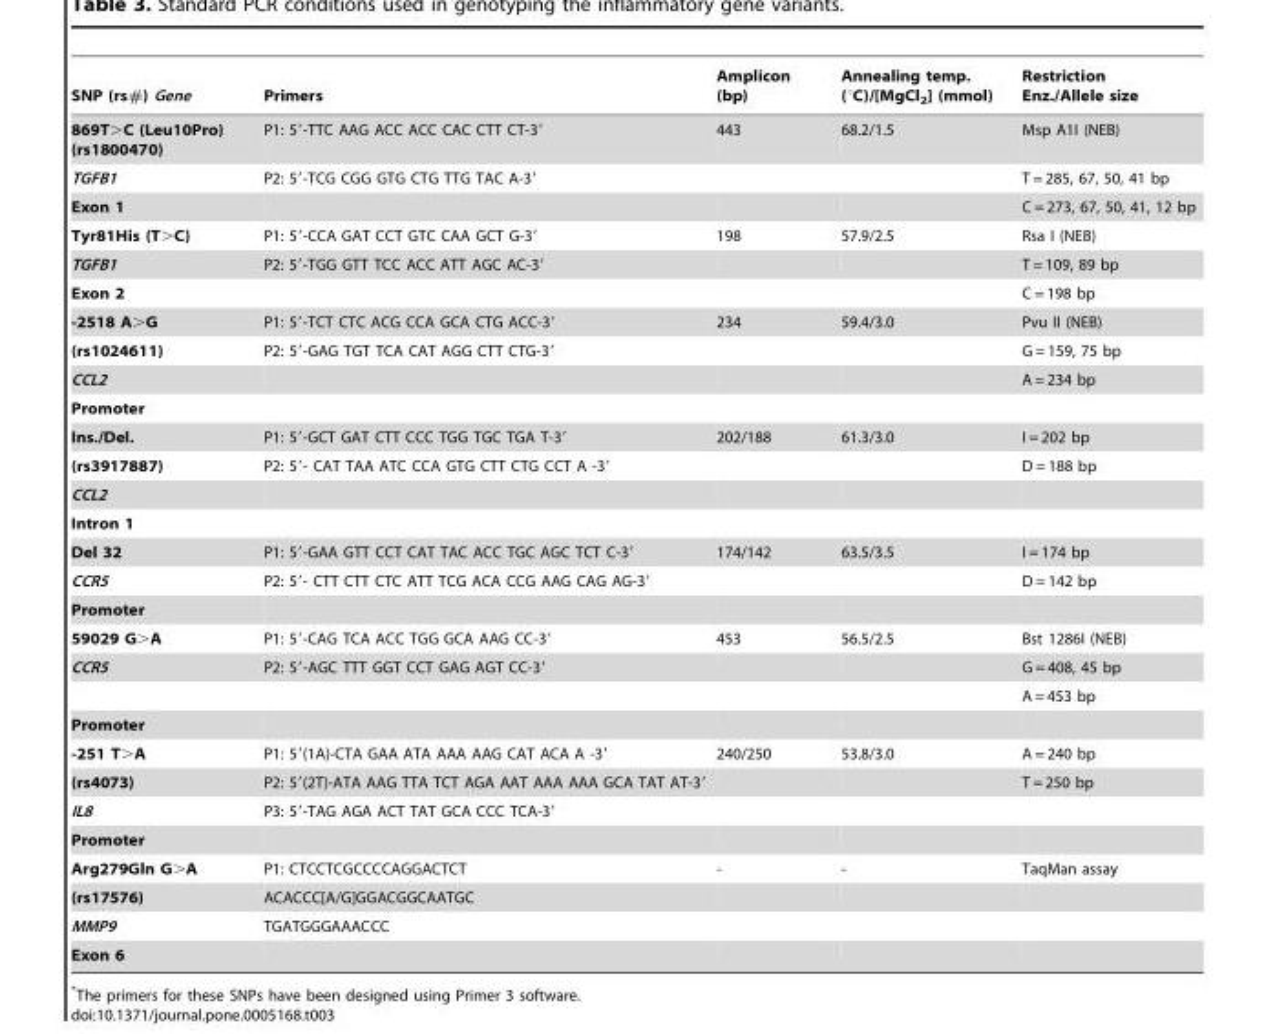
<table><thead><tr><td>SNP (rs#) Gene</td><td>Primers</td><td>Amplicon (bp)</td><td>Annealing temp. (°C)/[MgCl<sub>2</sub>] (mmol)</td><td>Restriction Enz./Allele size</td></tr></thead><tbody><tr><td>869T&gt;C (Leu10Pro) (rs1800470)</td><td>P1: 5′-TTC AAG ACC ACC CAC CTT CT-3′</td><td>443</td><td>68.2/1.5</td><td>Msp A1I (NEB)</td></tr><tr><td>TGFB1</td><td>P2: 5′-TCG CGG GTG CTG TTG TAC A-3′</td><td></td><td></td><td>T = 285, 67, 50, 41 bp</td></tr><tr><td>Exon 1</td><td></td><td></td><td></td><td>C = 273, 67, 50, 41, 12 bp</td></tr><tr><td>Tyr81His (T&gt;C)</td><td>P1: 5′-CCA GAT CCT GTC CAA GCT G-3′</td><td>198</td><td>57.9/2.5</td><td>Rsa I (NEB)</td></tr><tr><td>TGFB1</td><td>P2: 5′-TGG GTT TCC ACC ATT AGC AC-3′</td><td></td><td></td><td>T = 109, 89 bp</td></tr><tr><td>Exon 2</td><td></td><td></td><td></td><td>C = 198 bp</td></tr><tr><td>-2518 A&gt;G</td><td>P1: 5′-TCT CTC ACG CCA GCA CTG ACC-3′</td><td>234</td><td>59.4/3.0</td><td>Pvu II (NEB)</td></tr><tr><td>(rs1024611)</td><td>P2: 5′-GAG TGT TCA CAT AGG CTT CTG-3′</td><td></td><td></td><td>G = 159, 75 bp</td></tr><tr><td>CCL2</td><td></td><td></td><td></td><td>A = 234 bp</td></tr><tr><td colspan="5">Promoter</td></tr><tr><td>Ins./Del.</td><td>P1: 5′-GCT GAT CTT CCC TGG TGC TGA T-3′</td><td>202/188</td><td>61.3/3.0</td><td>I = 202 bp</td></tr><tr><td>(rs3917887)</td><td>P2: 5′- CAT TAA ATC CCA GTG CTT CTG CCT A -3′</td><td></td><td></td><td>D = 188 bp</td></tr><tr><td colspan="5">CCL2</td></tr><tr><td colspan="5">Intron 1</td></tr><tr><td>Del 32</td><td>P1: 5′-GAA GTT CCT CAT TAC ACC TGC AGC TCT C-3′</td><td>174/142</td><td>63.5/3.5</td><td>I = 174 bp</td></tr><tr><td>CCR5</td><td>P2: 5′- CTT CTT CTC ATT TCG ACA CCG AAG CAG AG-3′</td><td></td><td></td><td>D = 142 bp</td></tr><tr><td colspan="5">Promoter</td></tr><tr><td>59029 G&gt;A</td><td>P1: 5′-CAG TCA ACC TGG GCA AAG CC-3′</td><td>453</td><td>56.5/2.5</td><td>Bst 1286I (NEB)</td></tr><tr><td rowspan="2">CCR5</td><td>P2: 5′-AGC TTT GGT CCT GAG AGT CC-3′</td><td></td><td></td><td>G = 408, 45 bp</td></tr><tr><td></td><td></td><td></td><td>A = 453 bp</td></tr><tr><td colspan="5">Promoter</td></tr><tr><td>-251 T&gt;A</td><td>P1: 5′(1A)-CTA GAA ATA AAA AAG CAT ACA A -3′</td><td>240/250</td><td>53.8/3.0</td><td>A = 240 bp</td></tr><tr><td>(rs4073)</td><td>P2: 5′(2T)-ATA AAG TTA TCT AGA AAT AAA AAA GCA TAT AT-3′</td><td></td><td></td><td>T = 250 bp</td></tr><tr><td>IL8</td><td>P3: 5′-TAG AGA ACT TAT GCA CCC TCA-3′</td><td></td><td></td><td></td></tr><tr><td colspan="5">Promoter</td></tr><tr><td>Arg279Gln G&gt;A</td><td>P1: CTCCTCGCCCCAGGACTCT</td><td>-</td><td>-</td><td>TaqMan assay</td></tr><tr><td>(rs17576)</td><td>ACACCC[A/G]GGACGGCAATGC</td><td></td><td></td><td></td></tr><tr><td>MMP9</td><td>TGATGGGAAACCC</td><td></td><td></td><td></td></tr><tr><td>Exon 6</td><td></td><td></td><td></td><td></td></tr></tbody></table>